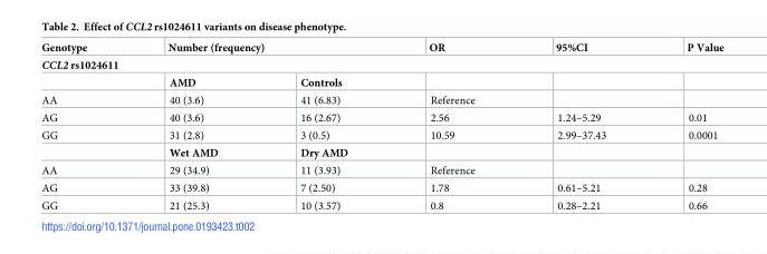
<table><thead><tr><td>Genotype</td><td colspan="2">Number (frequency)</td><td>OR</td><td>95%CI</td><td>P Value</td></tr><tr><td colspan="6">CCL2 rs1024611</td></tr><tr><td></td><td>AMD</td><td>Controls</td><td></td><td></td><td></td></tr></thead><tbody><tr><td>AA</td><td>40 (3.6)</td><td>41 (6.83)</td><td>Reference</td><td></td><td></td></tr><tr><td>AG</td><td>40 (3.6)</td><td>16 (2.67)</td><td>2.56</td><td>1.24–5.29</td><td>0.01</td></tr><tr><td rowspan="2">GG</td><td>31 (2.8)</td><td>3 (0.5)</td><td>10.59</td><td>2.99–37.43</td><td>0.0001</td></tr><tr><td>Wet AMD</td><td>Dry AMD</td><td></td><td></td><td></td></tr><tr><td>AA</td><td>29 (34.9)</td><td>11 (3.93)</td><td>Reference</td><td></td><td></td></tr><tr><td>AG</td><td>33 (39.8)</td><td>7 (2.50)</td><td>1.78</td><td>0.61–5.21</td><td>0.28</td></tr><tr><td>GG</td><td>21 (25.3)</td><td>10 (3.57)</td><td>0.8</td><td>0.28–2.21</td><td>0.66</td></tr></tbody></table>